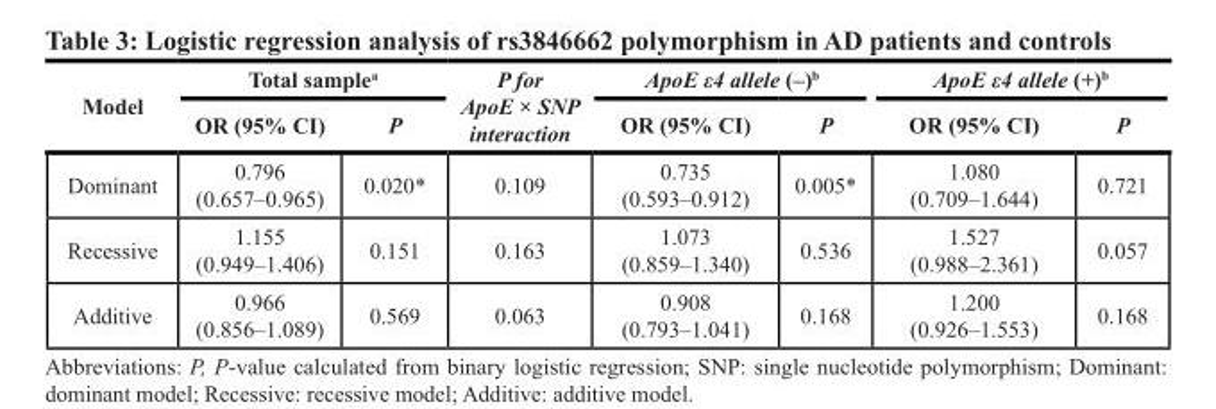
<table><thead><tr><td rowspan="2">Model</td><td colspan="2">Total sample<sup>a</sup></td><td rowspan="2">P for ApoE × SNP interaction</td><td colspan="2">ApoE ε4 allele (–)<sup>b</sup></td><td colspan="2">ApoE ε4 allele (+)<sup>b</sup></td></tr><tr><td>OR (95% CI)</td><td>P</td><td>OR (95% CI)</td><td>P</td><td>OR (95% CI)</td><td>P</td></tr></thead><tbody><tr><td>Dominant</td><td>0.796 (0.657–0.965)</td><td>0.020*</td><td>0.109</td><td>0.735 (0.593–0.912)</td><td>0.005*</td><td>1.080 (0.709–1.644)</td><td>0.721</td></tr><tr><td>Recessive</td><td>1.155 (0.949–1.406)</td><td>0.151</td><td>0.163</td><td>1.073 (0.859–1.340)</td><td>0.536</td><td>1.527 (0.988–2.361)</td><td>0.057</td></tr><tr><td>Additive</td><td>0.966 (0.856–1.089)</td><td>0.569</td><td>0.063</td><td>0.908 (0.793–1.041)</td><td>0.168</td><td>1.200 (0.926–1.553)</td><td>0.168</td></tr></tbody></table>